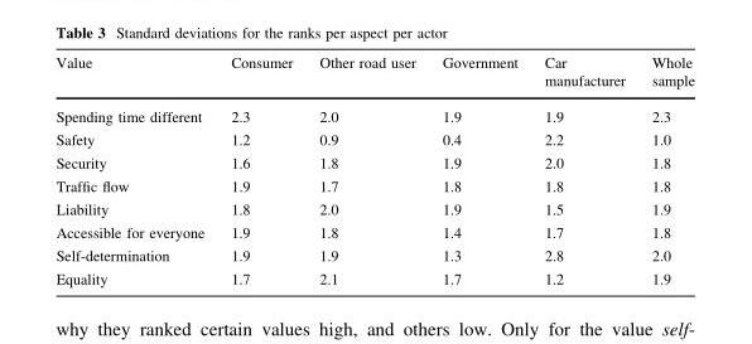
<table><thead><tr><td>Value</td><td>Consumer</td><td>Other road user</td><td>Government</td><td>Car manufacturer</td><td>Whole sample</td></tr></thead><tbody><tr><td>Spending time different</td><td>2.3</td><td>2.0</td><td>1.9</td><td>1.9</td><td>2.3</td></tr><tr><td>Safety</td><td>1.2</td><td>0.9</td><td>0.4</td><td>2.2</td><td>1.0</td></tr><tr><td>Security</td><td>1.6</td><td>1.8</td><td>1.9</td><td>2.0</td><td>1.8</td></tr><tr><td>Traffic flow</td><td>1.9</td><td>1.7</td><td>1.8</td><td>1.8</td><td>1.8</td></tr><tr><td>Liability</td><td>1.8</td><td>2.0</td><td>1.9</td><td>1.5</td><td>1.9</td></tr><tr><td>Accessible for everyone</td><td>1.9</td><td>1.8</td><td>1.4</td><td>1.7</td><td>1.8</td></tr><tr><td>Self-determination</td><td>1.9</td><td>1.9</td><td>1.3</td><td>2.8</td><td>2.0</td></tr><tr><td>Equality</td><td>1.7</td><td>2.1</td><td>1.7</td><td>1.2</td><td>1.9</td></tr></tbody></table>